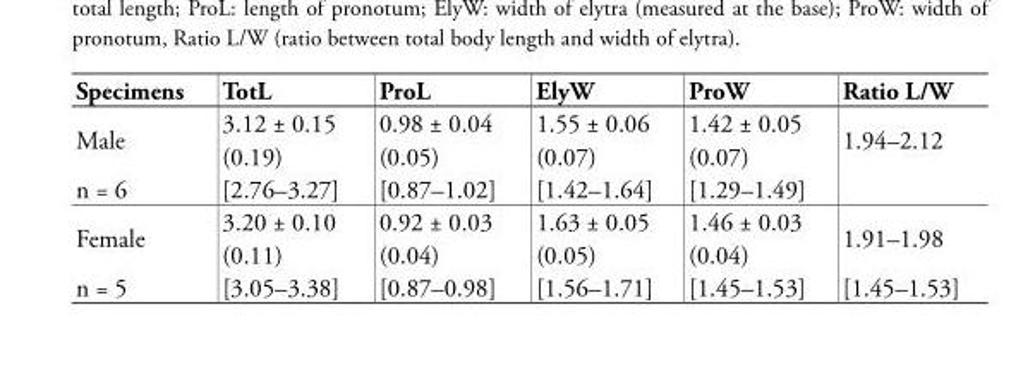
<table><tbody><tr><td>Specimens</td><td>TotL</td><td>ProL</td><td>ElyW</td><td>ProW</td><td>Ratio L/W</td></tr><tr><td>Male</td><td>3.12 ± 0.15 (0.19)</td><td>0.98 ± 0.04 (0.05)</td><td>1.55 ± 0.06 (0.07)</td><td>1.42 ± 0.05 (0.07)</td><td>1.94–2.12</td></tr><tr><td>n = 6</td><td>[2.76–3.27]</td><td>[0.87–1.02]</td><td>[1.42–1.64]</td><td>[1.29–1.49]</td><td></td></tr><tr><td>Female</td><td>3.20 ± 0.10 (0.11)</td><td>0.92 ± 0.03 (0.04)</td><td>1.63 ± 0.05 (0.05)</td><td>1.46 ± 0.03 (0.04)</td><td>1.91–1.98</td></tr><tr><td>n = 5</td><td>[3.05–3.38]</td><td>[0.87–0.98]</td><td>[1.56–1.71]</td><td>[1.45–1.53]</td><td>[1.45–1.53]</td></tr></tbody></table>